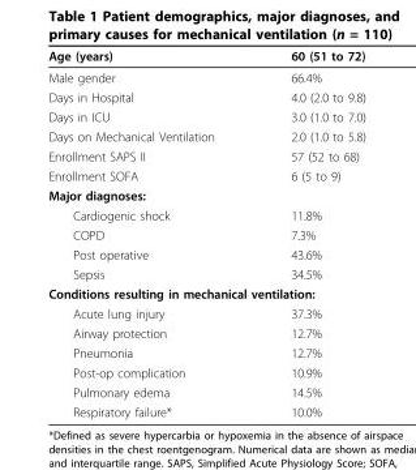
<table><thead><tr><td>Age (years)</td><td>60 (51 to 72)</td></tr></thead><tbody><tr><td>Male gender</td><td>66.4%</td></tr><tr><td>Days in Hospital</td><td>4.0 (2.0 to 9.8)</td></tr><tr><td>Days in ICU</td><td>3.0 (1.0 to 7.0)</td></tr><tr><td>Days on Mechanical Ventilation</td><td>2.0 (1.0 to 5.8)</td></tr><tr><td>Enrollment SAPS II</td><td>57 (52 to 68)</td></tr><tr><td>Enrollment SOFA</td><td>6 (5 to 9)</td></tr><tr><td colspan="2">Major diagnoses:</td></tr><tr><td>Cardiogenic shock</td><td>11.8%</td></tr><tr><td>COPD</td><td>7.3%</td></tr><tr><td>Post operative</td><td>43.6%</td></tr><tr><td>Sepsis</td><td>34.5%</td></tr><tr><td colspan="2">Conditions resulting in mechanical ventilation:</td></tr><tr><td>Acute lung injury</td><td>37.3%</td></tr><tr><td>Airway protection</td><td>12.7%</td></tr><tr><td>Pneumonia</td><td>12.7%</td></tr><tr><td>Post-op complication</td><td>10.9%</td></tr><tr><td>Pulmonary edema</td><td>14.5%</td></tr><tr><td>Respiratory failure*</td><td>10.0%</td></tr></tbody></table>